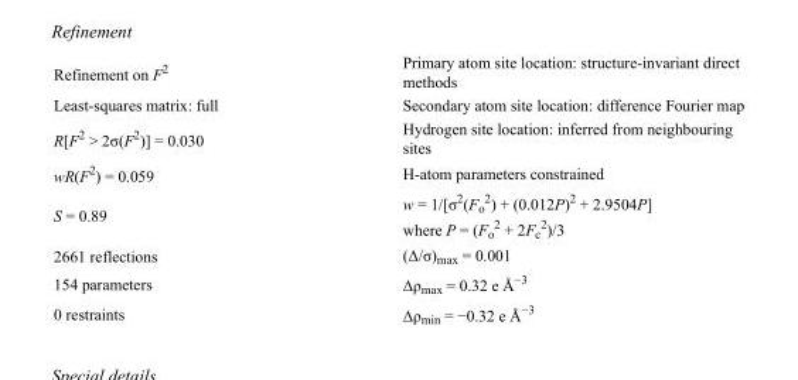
<table><tbody><tr><td>Refinement on F<sup>2</sup></td><td>Primary atom site location: structure-invariant direct methods</td></tr><tr><td>Least-squares matrix: full</td><td>Secondary atom site location: difference Fourier map</td></tr><tr><td>R[F<sup>2</sup> &gt; 2σ(F<sup>2</sup>)] = 0.030</td><td>Hydrogen site location: inferred from neighbouring sites</td></tr><tr><td>wR(F<sup>2</sup>) = 0.059</td><td>H-atom parameters constrained</td></tr><tr><td>S = 0.89</td><td>w = 1/[σ<sup>2</sup>(F<sub>o</sub> <sup>2</sup>) + (0.012P)<sup>2</sup> + 2.9504P] where P = (F<sub>o</sub> <sup>2</sup> + 2F<sub>c</sub> <sup>2</sup>)/3</td></tr><tr><td>2661 reflections</td><td>(Δ/σ)<sub>max</sub> = 0.001</td></tr><tr><td>154 parameters</td><td>Δρ<sub>max</sub> = 0.32 e Å<sup>−3</sup></td></tr><tr><td>0 restraints</td><td>Δρ<sub>min</sub> = −0.32 e Å<sup>−3</sup></td></tr></tbody></table>